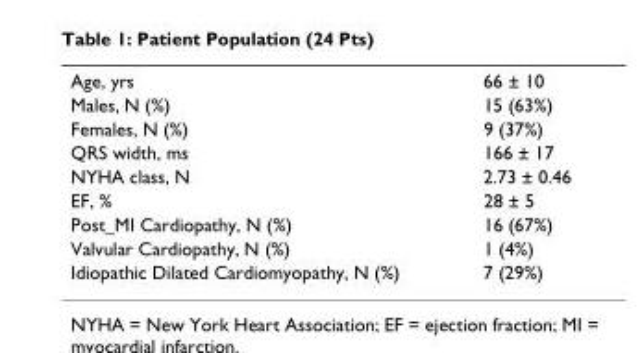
<table><tbody><tr><td>Age, yrs</td><td>66 ± 10</td></tr><tr><td>Males, N (%)</td><td>15 (63%)</td></tr><tr><td>Females, N (%)</td><td>9 (37%)</td></tr><tr><td>QRS width, ms</td><td>166 ± 17</td></tr><tr><td>NYHA class, N</td><td>2.73 ± 0.46</td></tr><tr><td>EF, %</td><td>28 ± 5</td></tr><tr><td>Post_MI Cardiopathy, N (%)</td><td>16 (67%)</td></tr><tr><td>Valvular Cardiopathy, N (%)</td><td>1 (4%)</td></tr><tr><td>Idiopathic Dilated Cardiomyopathy, N (%)</td><td>7 (29%)</td></tr></tbody></table>